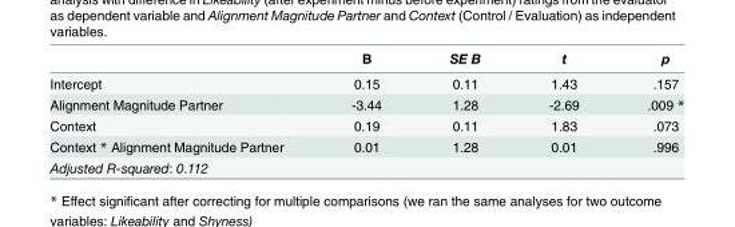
<table><thead><tr><td></td><td>B</td><td>SE B</td><td>t</td><td>p</td></tr></thead><tbody><tr><td>Intercept</td><td>0.15</td><td>0.11</td><td>1.43</td><td>.157</td></tr><tr><td>Alignment Magnitude Partner</td><td>-3.44</td><td>1.28</td><td>-2.69</td><td>.009 *</td></tr><tr><td>Context</td><td>0.19</td><td>0.11</td><td>1.83</td><td>.073</td></tr><tr><td>Context * Alignment Magnitude Partner</td><td>0.01</td><td>1.28</td><td>0.01</td><td>.996</td></tr><tr><td>Adjusted R-squared: 0.112</td><td colspan="4"></td></tr></tbody></table>